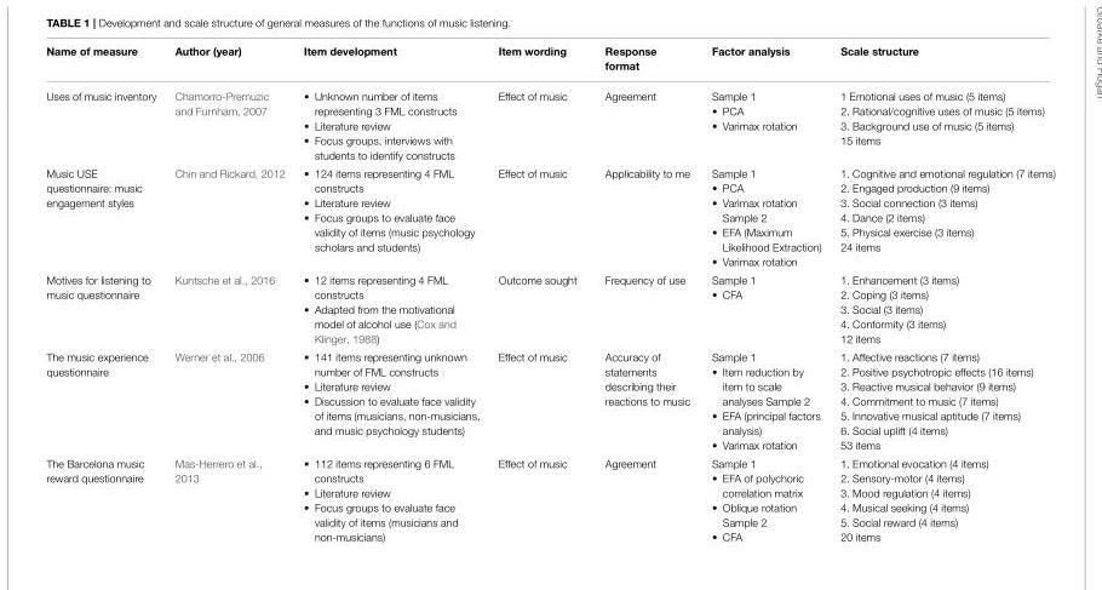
<table><thead><tr><td>Name of measure</td><td>Author (year)</td><td>Item development</td><td>Item wording</td><td>Response format</td><td>Factor analysis</td><td>Scale structure</td></tr></thead><tbody><tr><td>Uses of music inventory</td><td>Chamorro-Premuzic and Furnham, 2007</td><td>• Unknown number of items representing 3 FML constructs • Literature review • Focus groups, interviews with students to identify constructs</td><td>Effect of music</td><td>Agreement</td><td>Sample 1 • PCA • Varimax rotation</td><td>1 Emotional uses of music (5 items) 2. Rational/cognitive uses of music (5 items) 3. Background use of music (5 items) 15 items</td></tr><tr><td>Music USE questionnaire: music engagement styles</td><td>Chin and Rickard, 2012</td><td>• 124 items representing 4 FML constructs • Literature review • Focus groups to evaluate face validity of items (music psychology scholars and students)</td><td>Effect of music</td><td>Applicability to me</td><td>Sample 1 • PCA • Varimax rotation Sample 2 • EFA (Maximum Likelihood Extraction) • Varimax rotation</td><td>1. Cognitive and emotional regulation (7 items) 2. Engaged production (9 items) 3. Social connection (3 items) 4. Dance (2 items) 5. Physical exercise (3 items) 24 items</td></tr><tr><td>Motives for listening to music questionnaire</td><td>Kuntsche et al., 2016</td><td>• 12 items representing 4 FML constructs • Adapted from the motivational model of alcohol use (Cox and Klinger, 1988)</td><td>Outcome sought</td><td>Frequency of use</td><td>Sample 1 • CFA</td><td>1. Enhancement (3 items) 2. Coping (3 items) 3. Social (3 items) 4. Conformity (3 items) 12 items</td></tr><tr><td>The music experience questionnaire</td><td>Werner et al., 2006</td><td>• 141 items representing unknown number of FML constructs • Literature review • Discussion to evaluate face validity of items (musicians, non-musicians, and music psychology students)</td><td>Effect of music</td><td>Accuracy of statements describing their reactions to music</td><td>Sample 1 • Item reduction by item to scale analyses Sample 2 • EFA (principal factors analysis) • Varimax rotation</td><td>1. Affective reactions (7 items) 2. Positive psychotropic effects (16 items) 3. Reactive musical behavior (9 items) 4. Commitment to music (7 items) 5. Innovative musical aptitude (7 items) 6. Social uplift (4 items) 53 items</td></tr><tr><td>The Barcelona music reward questionnaire</td><td>Mas-Herrero et al., 2013</td><td>• 112 items representing 6 FML constructs • Literature review • Focus groups to evaluate face validity of items (musicians and non-musicians)</td><td>Effect of music</td><td>Agreement</td><td>Sample 1 • EFA of polychoric correlation matrix • Oblique rotation Sample 2 • CFA</td><td>1. Emotional evocation (4 items) 2. Sensory-motor (4 items) 3. Mood regulation (4 items) 4. Musical seeking (4 items) 5. Social reward (4 items) 20 items</td></tr></tbody></table>